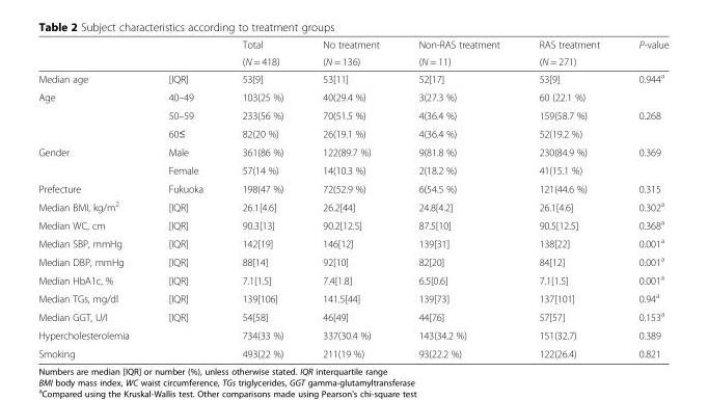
<table><thead><tr><td rowspan="2"></td><td rowspan="2"></td><td rowspan="2">Total (N = 418)</td><td rowspan="2">No treatment (N = 136)</td><td rowspan="2">Non-RAS treatment (N = 11)</td><td rowspan="2">RAS treatment (N = 271)</td><td rowspan="2">P-value</td></tr><tr></tr></thead><tbody><tr><td>Median age</td><td>[IQR]</td><td>53[9]</td><td>53[11]</td><td>52[17]</td><td>53[9]</td><td>0.944<sup>a</sup></td></tr><tr><td rowspan="3">Age</td><td>40–49</td><td>103(25 %)</td><td>40(29.4 %)</td><td>3(27.3 %)</td><td>60 (22.1 %)</td><td></td></tr><tr><td>50–59</td><td>233(56 %)</td><td>70(51.5 %)</td><td>4(36.4 %)</td><td>159(58.7 %)</td><td>0.268</td></tr><tr><td>60≤</td><td>82(20 %)</td><td>26(19.1 %)</td><td>4(36.4 %)</td><td>52(19.2 %)</td><td></td></tr><tr><td rowspan="2">Gender</td><td>Male</td><td>361(86 %)</td><td>122(89.7 %)</td><td>9(81.8 %)</td><td>230(84.9 %)</td><td rowspan="2">0.369</td></tr><tr><td>Female</td><td>57(14 %)</td><td>14(10.3 %)</td><td>2(18.2 %)</td><td>41(15.1 %)</td></tr><tr><td>Prefecture</td><td>Fukuoka</td><td>198(47 %)</td><td>72(52.9 %)</td><td>6(54.5 %)</td><td>121(44.6 %)</td><td>0.315</td></tr><tr><td>Median BMI, kg/m<sup>2</sup></td><td>[IQR]</td><td>26.1[4.6]</td><td>26.2[44]</td><td>24.8[4.2]</td><td>26.1[4.6]</td><td>0.302<sup>a</sup></td></tr><tr><td>Median WC, cm</td><td>[IQR]</td><td>90.3[13]</td><td>90.2[12.5]</td><td>87.5[10]</td><td>90.5[12.5]</td><td>0.368<sup>a</sup></td></tr><tr><td>Median SBP, mmHg</td><td>[IQR]</td><td>142[19]</td><td>146[12]</td><td>139[31]</td><td>138[22]</td><td>0.001<sup>a</sup></td></tr><tr><td>Median DBP, mmHg</td><td>[IQR]</td><td>88[14]</td><td>92[10]</td><td>82[20]</td><td>84[12]</td><td>0.001<sup>a</sup></td></tr><tr><td>Median HbA1c, %</td><td>[IQR]</td><td>7.1[1.5]</td><td>7.4[1.8]</td><td>6.5[0.6]</td><td>7.1[1.5]</td><td>0.001<sup>a</sup></td></tr><tr><td>Median TGs, mg/dl</td><td>[IQR]</td><td>139[106]</td><td>141.5[44]</td><td>139[73]</td><td>137[101]</td><td>0.94<sup>a</sup></td></tr><tr><td>Median GGT, U/I</td><td>[IQR]</td><td>54[58]</td><td>46[49]</td><td>44[76]</td><td>57[57]</td><td>0.153<sup>a</sup></td></tr><tr><td>Hypercholesterolemia</td><td></td><td>734(33 %)</td><td>337(30.4 %)</td><td>143(34.2 %)</td><td>151(32.7)</td><td>0.389</td></tr><tr><td>Smoking</td><td></td><td>493(22 %)</td><td>211(19 %)</td><td>93(22.2 %)</td><td>122(26.4)</td><td>0.821</td></tr></tbody></table>